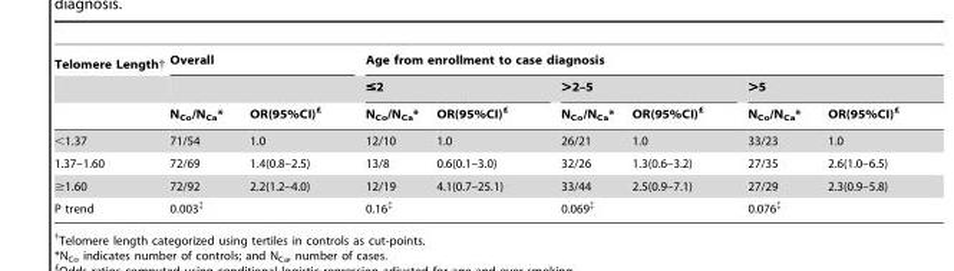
<table><thead><tr><td rowspan="3">Telomere Length†</td><td colspan="2">Overall</td><td colspan="6">Age from enrollment to case diagnosis</td></tr><tr><td rowspan="2">N<sub>Co</sub>/N<sub>Ca</sub>*</td><td rowspan="2">OR(95%CI)£</td><td colspan="2">≤2</td><td colspan="2">&gt;2–5</td><td colspan="2">&gt;5</td></tr><tr><td>N<sub>Co</sub>/N<sub>Ca</sub>*</td><td>OR(95%CI)£</td><td>N<sub>Co</sub>/N<sub>Ca</sub>*</td><td>OR(95%CI)£</td><td>N<sub>Co</sub>/N<sub>Ca</sub>*</td><td>OR(95%CI)£</td></tr></thead><tbody><tr><td>&lt;1.37</td><td>71/54</td><td>1.0</td><td>12/10</td><td>1.0</td><td>26/21</td><td>1.0</td><td>33/23</td><td>1.0</td></tr><tr><td>1.37–1.60</td><td>72/69</td><td>1.4(0.8–2.5)</td><td>13/8</td><td>0.6(0.1–3.0)</td><td>32/26</td><td>1.3(0.6–3.2)</td><td>27/35</td><td>2.6(1.0–6.5)</td></tr><tr><td>≥1.60</td><td>72/92</td><td>2.2(1.2–4.0)</td><td>12/19</td><td>4.1(0.7–25.1)</td><td>33/44</td><td>2.5(0.9–7.1)</td><td>27/29</td><td>2.3(0.9–5.8)</td></tr><tr><td>P trend</td><td>0.003‡</td><td></td><td>0.16‡</td><td></td><td>0.069‡</td><td></td><td>0.076‡</td><td></td></tr></tbody></table>